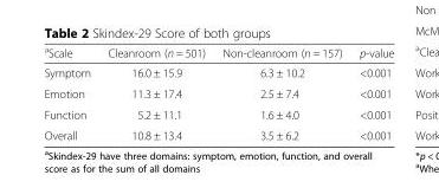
<table><thead><tr><td><sup>a</sup>Scale</td><td>Cleanroom (n = 501)</td><td>Non-cleanroom (n = 157)</td><td>p-value</td></tr></thead><tbody><tr><td>Symptom</td><td>16.0 ± 15.9</td><td>6.3 ± 10.2</td><td>&lt;0.001</td></tr><tr><td>Emotion</td><td>11.3 ± 17.4</td><td>2.5 ± 7.4</td><td>&lt;0.001</td></tr><tr><td>Function</td><td>5.2 ± 11.1</td><td>1.6 ± 4.0</td><td>&lt;0.001</td></tr><tr><td>Overall</td><td>10.8 ± 13.4</td><td>3.5 ± 6.2</td><td>&lt;0.001</td></tr></tbody></table>